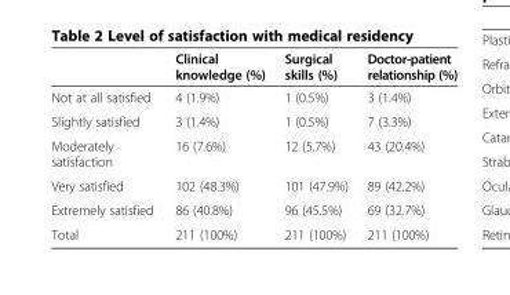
<table><thead><tr><td></td><td>Clinical knowledge (%)</td><td>Surgical skills (%)</td><td>Doctor-patient relationship (%)</td></tr></thead><tbody><tr><td>Not at all satisfied</td><td>4 (1.9%)</td><td>1 (0.5%)</td><td>3 (1.4%)</td></tr><tr><td>Slightly satisfied</td><td>3 (1.4%)</td><td>1 (0.5%)</td><td>7 (3.3%)</td></tr><tr><td>Moderately satisfaction</td><td>16 (7.6%)</td><td>12 (5.7%)</td><td>43 (20.4%)</td></tr><tr><td>Very satisfied</td><td>102 (48.3%)</td><td>101 (47.9%)</td><td>89 (42.2%)</td></tr><tr><td>Extremely satisfied</td><td>86 (40.8%)</td><td>96 (45.5%)</td><td>69 (32.7%)</td></tr><tr><td>Total</td><td>211 (100%)</td><td>211 (100%)</td><td>211 (100%)</td></tr></tbody></table>